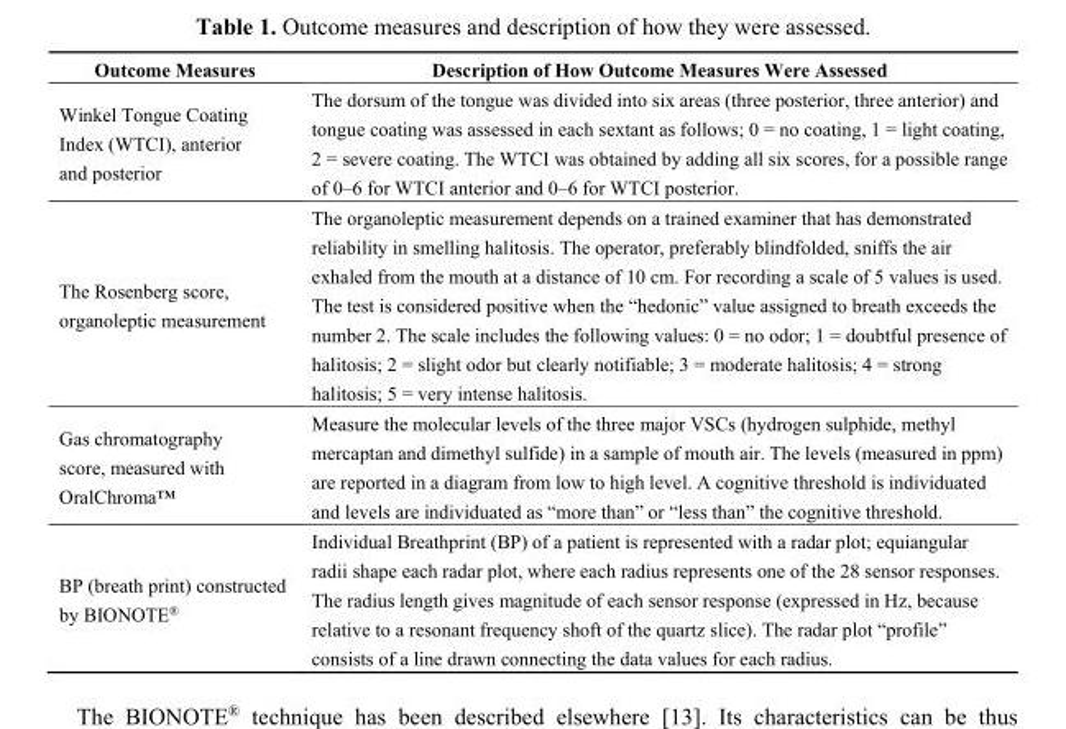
<table><thead><tr><td>Outcome Measures</td><td>Description of How Outcome Measures Were Assessed</td></tr></thead><tbody><tr><td>Winkel Tongue Coating Index (WTCI), anterior and posterior</td><td>The dorsum of the tongue was divided into six areas (three posterior, three anterior) and tongue coating was assessed in each sextant as follows; 0 = no coating, 1 = light coating, 2 = severe coating. The WTCI was obtained by adding all six scores, for a possible range of 0–6 for WTCI anterior and 0–6 for WTCI posterior.</td></tr><tr><td>The Rosenberg score, organoleptic measurement</td><td>The organoleptic measurement depends on a trained examiner that has demonstrated reliability in smelling halitosis. The operator, preferably blindfolded, sniffs the air exhaled from the mouth at a distance of 10 cm. For recording a scale of 5 values is used. The test is considered positive when the “hedonic” value assigned to breath exceeds the number 2. The scale includes the following values: 0 = no odor; 1 = doubtful presence of halitosis; 2 = slight odor but clearly notifiable; 3 = moderate halitosis; 4 = strong halitosis; 5 = very intense halitosis.</td></tr><tr><td>Gas chromatography score, measured with OralChroma™</td><td>Measure the molecular levels of the three major VSCs (hydrogen sulphide, methyl mercaptan and dimethyl sulfide) in a sample of mouth air. The levels (measured in ppm) are reported in a diagram from low to high level. A cognitive threshold is individuated and levels are individuated as “more than” or “less than” the cognitive threshold.</td></tr><tr><td>BP (breath print) constructed by BIONOTE<sup>®</sup></td><td>Individual Breathprint (BP) of a patient is represented with a radar plot; equiangular radii shape each radar plot, where each radius represents one of the 28 sensor responses. The radius length gives magnitude of each sensor response (expressed in Hz, because relative to a resonant frequency shoft of the quartz slice). The radar plot “profile” consists of a line drawn connecting the data values for each radius.</td></tr></tbody></table>